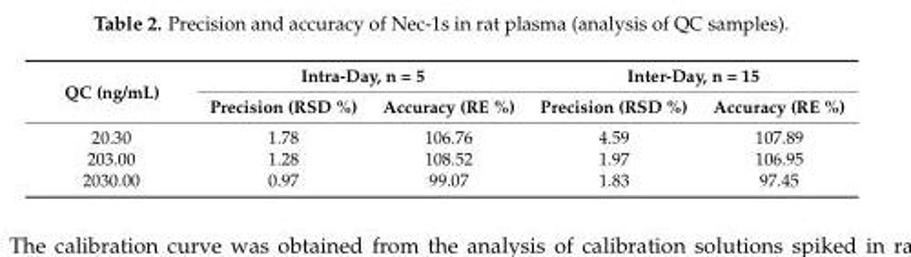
<table><thead><tr><td rowspan="2">QC (ng/mL)</td><td colspan="2">Intra-Day, n = 5</td><td colspan="2">Inter-Day, n = 15</td></tr><tr><td>Precision (RSD %)</td><td>Accuracy (RE %)</td><td>Precision (RSD %)</td><td>Accuracy (RE %)</td></tr></thead><tbody><tr><td>20.30</td><td>1.78</td><td>106.76</td><td>4.59</td><td>107.89</td></tr><tr><td>203.00</td><td>1.28</td><td>108.52</td><td>1.97</td><td>106.95</td></tr><tr><td>2030.00</td><td>0.97</td><td>99.07</td><td>1.83</td><td>97.45</td></tr></tbody></table>